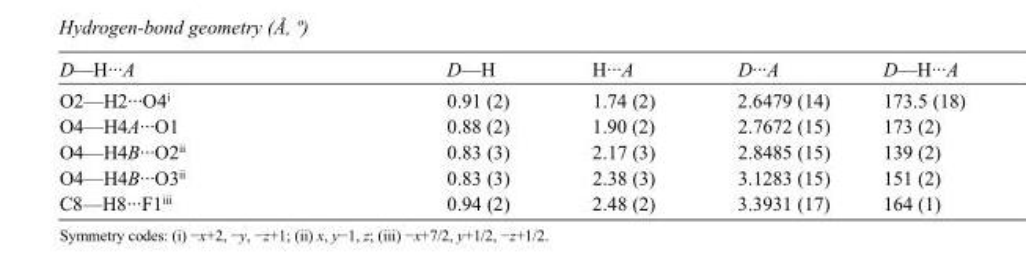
<table><tbody><tr><td>D—H···A</td><td>D—H</td><td>H···A</td><td>D···A</td><td>D—H···A</td></tr><tr><td>O2—H2···O4<sup>i</sup></td><td>0.91 (2)</td><td>1.74 (2)</td><td>2.6479 (14)</td><td>173.5 (18)</td></tr><tr><td>O4—H4A···O1</td><td>0.88 (2)</td><td>1.90 (2)</td><td>2.7672 (15)</td><td>173 (2)</td></tr><tr><td>O4—H4B···O2<sup>ii</sup></td><td>0.83 (3)</td><td>2.17 (3)</td><td>2.8485 (15)</td><td>139 (2)</td></tr><tr><td>O4—H4B···O3<sup>ii</sup></td><td>0.83 (3)</td><td>2.38 (3)</td><td>3.1283 (15)</td><td>151 (2)</td></tr><tr><td>C8—H8···F1<sup>iii</sup></td><td>0.94 (2)</td><td>2.48 (2)</td><td>3.3931 (17)</td><td>164 (1)</td></tr></tbody></table>